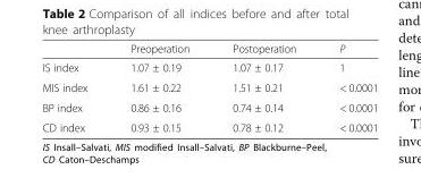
<table><thead><tr><td></td><td>Preoperation</td><td>Postoperation</td><td>P</td></tr></thead><tbody><tr><td>IS index</td><td>1.07 ± 0.19</td><td>1.07 ± 0.17</td><td>1</td></tr><tr><td>MIS index</td><td>1.61 ± 0.22</td><td>1.51 ± 0.21</td><td>&lt; 0.0001</td></tr><tr><td>BP index</td><td>0.86 ± 0.16</td><td>0.74 ± 0.14</td><td>&lt; 0.0001</td></tr><tr><td>CD index</td><td>0.93 ± 0.15</td><td>0.78 ± 0.12</td><td>&lt; 0.0001</td></tr></tbody></table>